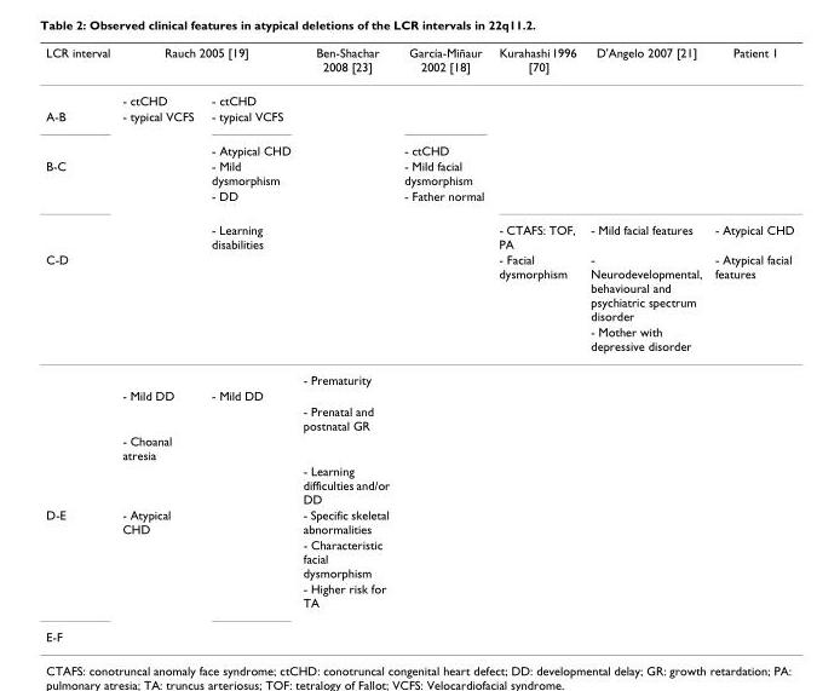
<table><thead><tr><td rowspan="2">LCR interval</td><td colspan="2">Rauch 2005 [19]</td><td rowspan="2">Ben-Shachar 2008 [23]</td><td rowspan="2">García-Miñaur 2002 [18]</td><td rowspan="2">Kurahashi 1996 [70]</td><td rowspan="2">D&#x27;Angelo 2007 [21]</td><td rowspan="2">Patient 1</td></tr><tr><td>- ctCHD</td><td>- ctCHD</td></tr></thead><tbody><tr><td rowspan="2">A-B</td><td>- typical VCFS</td><td>- typical VCFS</td><td></td><td></td><td></td><td></td><td></td></tr><tr><td></td><td>- Atypical CHD</td><td></td><td>- ctCHD</td><td></td><td></td><td></td></tr><tr><td rowspan="3">B-C</td><td></td><td>- Mild dysmorphism</td><td></td><td>- Mild facial dysmorphism</td><td></td><td></td><td></td></tr><tr><td></td><td>- DD</td><td></td><td>- Father normal</td><td></td><td></td><td></td></tr><tr><td></td><td>- Learning disabilities</td><td></td><td></td><td>- CTAFS: TOF, PA</td><td>- Mild facial features</td><td>- Atypical CHD</td></tr><tr><td rowspan="7">C-D</td><td></td><td></td><td></td><td></td><td>- Facial dysmorphism</td><td>- Neurodevelopmental, behavioural and psychiatric spectrum disorder</td><td>- Atypical facial features</td></tr><tr><td></td><td></td><td></td><td></td><td></td><td>- Mother with depressive disorder</td><td></td></tr><tr><td></td><td></td><td>- Prematurity</td><td></td><td></td><td></td><td></td></tr><tr><td>- Mild DD</td><td>- Mild DD</td><td></td><td></td><td></td><td></td><td></td></tr><tr><td></td><td></td><td>- Prenatal and postnatal GR</td><td></td><td></td><td></td><td></td></tr><tr><td>- Choanal atresia</td><td></td><td></td><td></td><td></td><td></td><td></td></tr><tr><td></td><td></td><td>- Learning difficulties and/or DD</td><td></td><td></td><td></td><td></td></tr><tr><td rowspan="3">D-E</td><td>- Atypical CHD</td><td></td><td>- Specific skeletal abnormalities</td><td></td><td></td><td></td><td></td></tr><tr><td></td><td></td><td>- Characteristic facial dysmorphism</td><td></td><td></td><td></td><td></td></tr><tr><td></td><td></td><td>- Higher risk for TA</td><td></td><td></td><td></td><td></td></tr><tr><td>E-F</td><td></td><td></td><td></td><td></td><td></td><td></td><td></td></tr></tbody></table>